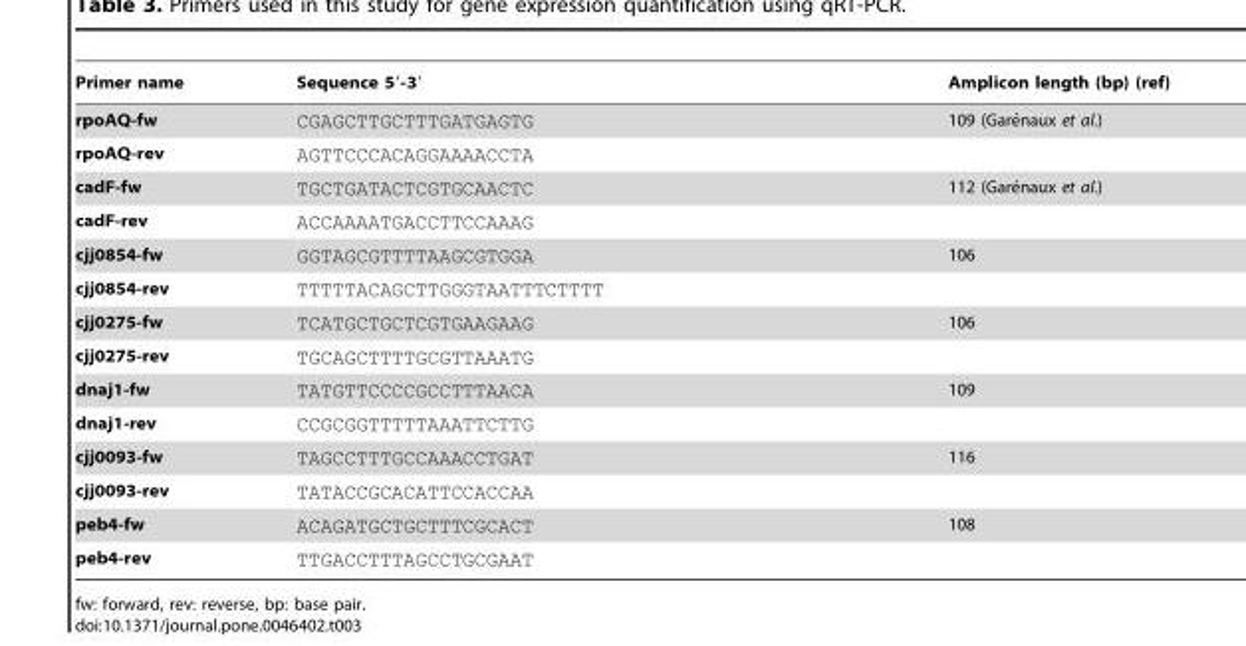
<table><thead><tr><td>Primer name</td><td>Sequence 5′-3′</td><td>Amplicon length (bp) (ref)</td></tr></thead><tbody><tr><td>rpoAQ-fw</td><td>CGAGCTTGCTTTGATGAGTG</td><td>109 (Gare´naux et al.)</td></tr><tr><td>rpoAQ-rev</td><td>AGTTCCCACAGGAAAACCTA</td><td></td></tr><tr><td>cadF-fw</td><td>TGCTGATACTCGTGCAACTC</td><td>112 (Gare´naux et al.)</td></tr><tr><td>cadF-rev</td><td>ACCAAAATGACCTTCCAAAG</td><td></td></tr><tr><td>cjj0854-fw</td><td>GGTAGCGTTTTAAGCGTGGA</td><td>106</td></tr><tr><td>cjj0854-rev</td><td>TTTTTACAGCTTGGGTAATTTCTTTT</td><td></td></tr><tr><td>cjj0275-fw</td><td>TCATGCTGCTCGTGAAGAAG</td><td>106</td></tr><tr><td>cjj0275-rev</td><td>TGCAGCTTTTGCGTTAAATG</td><td></td></tr><tr><td>dnaj1-fw</td><td>TATGTTCCCCGCCTTTAACA</td><td>109</td></tr><tr><td>dnaj1-rev</td><td>CCGCGGTTTTTAAATTCTTG</td><td></td></tr><tr><td>cjj0093-fw</td><td>TAGCCTTTGCCAAACCTGAT</td><td>116</td></tr><tr><td>cjj0093-rev</td><td>TATACCGCACATTCCACCAA</td><td></td></tr><tr><td>peb4-fw</td><td>ACAGATGCTGCTTTCGCACT</td><td>108</td></tr><tr><td>peb4-rev</td><td>TTGACCTTTAGCCTGCGAAT</td><td></td></tr></tbody></table>